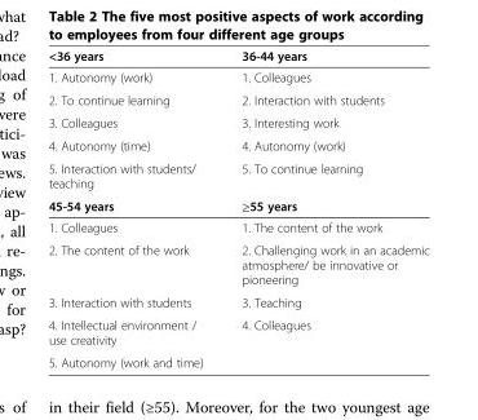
<table><tbody><tr><td>&lt;36 years</td><td>36-44 years</td></tr><tr><td>1. Autonomy (work)</td><td>1. Colleagues</td></tr><tr><td>2. To continue learning</td><td>2. Interaction with students</td></tr><tr><td>3. Colleagues</td><td>3. Interesting work</td></tr><tr><td>4. Autonomy (time)</td><td>4. Autonomy (work)</td></tr><tr><td>5. Interaction with students/ teaching</td><td>5. To continue learning</td></tr><tr><td>45-54 years</td><td>≥55 years</td></tr><tr><td>1. Colleagues</td><td>1. The content of the work</td></tr><tr><td>2. The content of the work</td><td>2. Challenging work in an academic atmosphere/ be innovative or pioneering</td></tr><tr><td>3. Interaction with students</td><td>3. Teaching</td></tr><tr><td>4. Intellectual environment / use creativity</td><td>4. Colleagues</td></tr><tr><td>5. Autonomy (work and time)</td><td></td></tr></tbody></table>